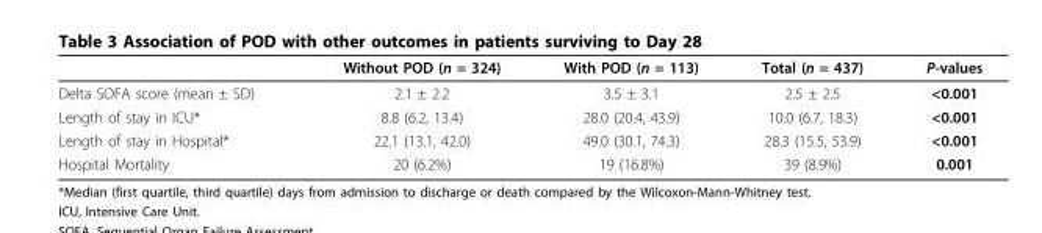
<table><thead><tr><td></td><td>Without POD (n = 324)</td><td>With POD (n = 113)</td><td>Total (n = 437)</td><td>P-values</td></tr></thead><tbody><tr><td>Delta SOFA score (mean ± SD)</td><td>2.1 ± 2.2</td><td>3.5 ± 3.1</td><td>2.5 ± 2.5</td><td>&lt;0.001</td></tr><tr><td>Length of stay in ICU*</td><td>8.8 (6.2, 13.4)</td><td>28.0 (20.4, 43.9)</td><td>10.0 (6.7, 18.3)</td><td>&lt;0.001</td></tr><tr><td>Length of stay in Hospital*</td><td>22.1 (13.1, 42.0)</td><td>49.0 (30.1, 74.3)</td><td>28.3 (15.5, 53.9)</td><td>&lt;0.001</td></tr><tr><td>Hospital Mortality</td><td>20 (6.2%)</td><td>19 (16.8%)</td><td>39 (8.9%)</td><td>0.001</td></tr></tbody></table>